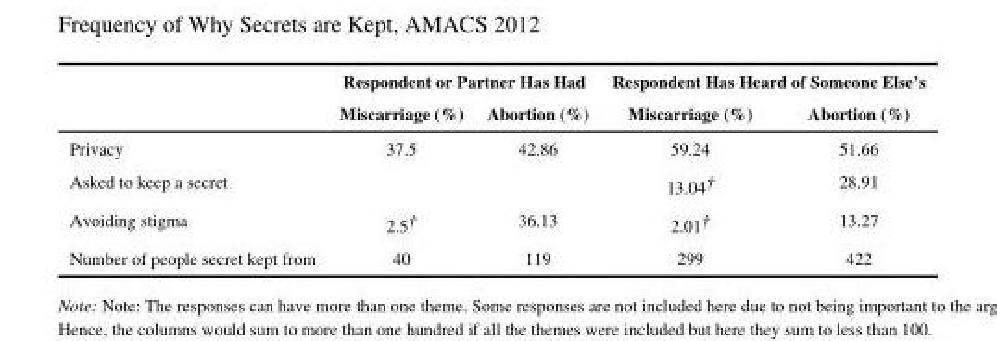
<table><thead><tr><td rowspan="2"></td><td colspan="2">Respondent or Partner Has Had</td><td colspan="2">Respondent Has Heard of Someone Else’s</td></tr><tr><td>Miscarriage (%)</td><td>Abortion (%)</td><td>Miscarriage (%)</td><td>Abortion (%)</td></tr></thead><tbody><tr><td>Privacy</td><td>37.5</td><td>42.86</td><td>59.24</td><td>51.66</td></tr><tr><td>Asked to keep a secret</td><td></td><td></td><td>13.04†</td><td>28.91</td></tr><tr><td>Avoiding stigma</td><td>2.5†</td><td>36.13</td><td>2.01†</td><td>13.27</td></tr><tr><td>Number of people secret kept from</td><td>40</td><td>119</td><td>299</td><td>422</td></tr></tbody></table>